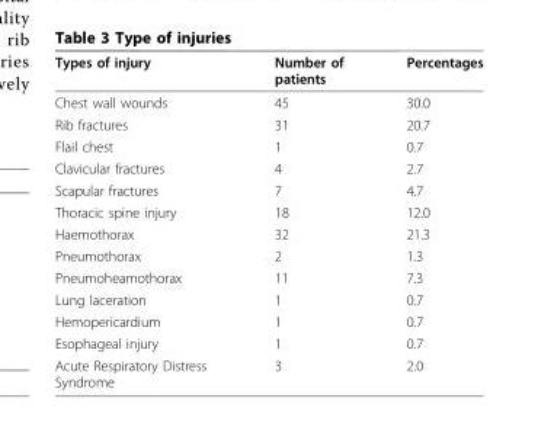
<table><thead><tr><td>Types of injury</td><td>Number of patients</td><td>Percentages</td></tr></thead><tbody><tr><td>Chest wall wounds</td><td>45</td><td>30.0</td></tr><tr><td>Rib fractures</td><td>31</td><td>20.7</td></tr><tr><td>Flail chest</td><td>1</td><td>0.7</td></tr><tr><td>Clavicular fractures</td><td>4</td><td>2.7</td></tr><tr><td>Scapular fractures</td><td>7</td><td>4.7</td></tr><tr><td>Thoracic spine injury</td><td>18</td><td>12.0</td></tr><tr><td>Haemothorax</td><td>32</td><td>21.3</td></tr><tr><td>Pneumothorax</td><td>2</td><td>1.3</td></tr><tr><td>Pneumoheamothorax</td><td>11</td><td>7.3</td></tr><tr><td>Lung laceration</td><td>1</td><td>0.7</td></tr><tr><td>Hemopericardium</td><td>1</td><td>0.7</td></tr><tr><td>Esophageal injury</td><td>1</td><td>0.7</td></tr><tr><td>Acute Respiratory Distress Syndrome</td><td>3</td><td>2.0</td></tr></tbody></table>